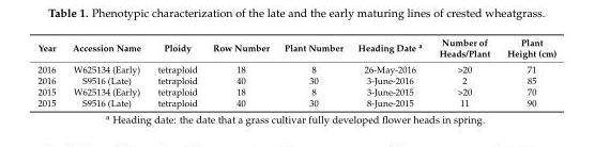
<table><thead><tr><td>Year</td><td>Accession Name</td><td>Ploidy</td><td>Row Number</td><td>Plant Number</td><td>Heading Date <sup>a</sup></td><td>Number of Heads/Plant</td><td>Plant Height (cm)</td></tr></thead><tbody><tr><td>2016</td><td>W625134 (Early)</td><td>tetraploid</td><td>18</td><td>8</td><td>26-May-2016</td><td>&gt;20</td><td>71</td></tr><tr><td>2016</td><td>S9516 (Late)</td><td>tetraploid</td><td>40</td><td>30</td><td>3-June-2016</td><td>2</td><td>85</td></tr><tr><td>2015</td><td>W625134 (Early)</td><td>tetraploid</td><td>18</td><td>8</td><td>3-June-2015</td><td>&gt;20</td><td>70</td></tr><tr><td>2015</td><td>S9516 (Late)</td><td>tetraploid</td><td>40</td><td>30</td><td>8-June-2015</td><td>11</td><td>90</td></tr></tbody></table>